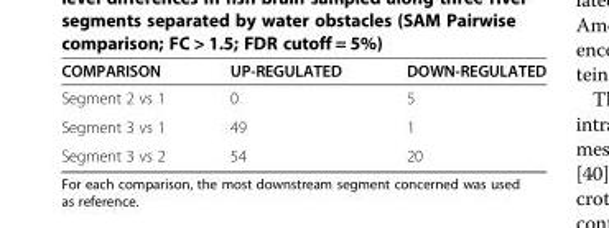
<table><thead><tr><td>COMPARISON</td><td>UP-REGULATED</td><td>DOWN-REGULATED</td></tr></thead><tbody><tr><td>Segment 2 vs 1</td><td>0</td><td>5</td></tr><tr><td>Segment 3 vs 1</td><td>49</td><td>1</td></tr><tr><td>Segment 3 vs 2</td><td>54</td><td>20</td></tr></tbody></table>